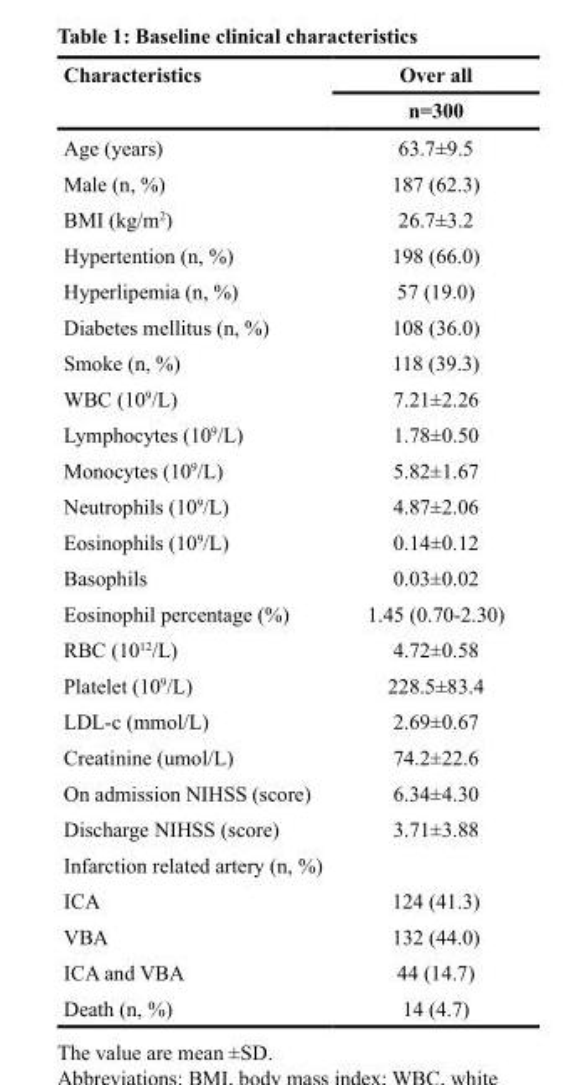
<table><thead><tr><td rowspan="2">Characteristics</td><td rowspan="2">Over all n=300</td></tr><tr></tr></thead><tbody><tr><td>Age (years)</td><td>63.7±9.5</td></tr><tr><td>Male (n, %)</td><td>187 (62.3)</td></tr><tr><td>BMI (kg/m<sup>2</sup>)</td><td>26.7±3.2</td></tr><tr><td>Hypertention (n, %)</td><td>198 (66.0)</td></tr><tr><td>Hyperlipemia (n, %)</td><td>57 (19.0)</td></tr><tr><td>Diabetes mellitus (n, %)</td><td>108 (36.0)</td></tr><tr><td>Smoke (n, %)</td><td>118 (39.3)</td></tr><tr><td>WBC (10<sup>9</sup>/L)</td><td>7.21±2.26</td></tr><tr><td>Lymphocytes (10<sup>9</sup>/L)</td><td>1.78±0.50</td></tr><tr><td>Monocytes (10<sup>9</sup>/L)</td><td>5.82±1.67</td></tr><tr><td>Neutrophils (10<sup>9</sup>/L)</td><td>4.87±2.06</td></tr><tr><td>Eosinophils (10<sup>9</sup>/L)</td><td>0.14±0.12</td></tr><tr><td>Basophils</td><td>0.03±0.02</td></tr><tr><td>Eosinophil percentage (%)</td><td>1.45 (0.70-2.30)</td></tr><tr><td>RBC (10<sup>12</sup>/L)</td><td>4.72±0.58</td></tr><tr><td>Platelet (10<sup>9</sup>/L)</td><td>228.5±83.4</td></tr><tr><td>LDL-c (mmol/L)</td><td>2.69±0.67</td></tr><tr><td>Creatinine (umol/L)</td><td>74.2±22.6</td></tr><tr><td>On admission NIHSS (score)</td><td>6.34±4.30</td></tr><tr><td>Discharge NIHSS (score)</td><td>3.71±3.88</td></tr><tr><td colspan="2">Infarction related artery (n, %)</td></tr><tr><td>ICA</td><td>124 (41.3)</td></tr><tr><td>VBA</td><td>132 (44.0)</td></tr><tr><td>ICA and VBA</td><td>44 (14.7)</td></tr><tr><td>Death (n, %)</td><td>14 (4.7)</td></tr></tbody></table>